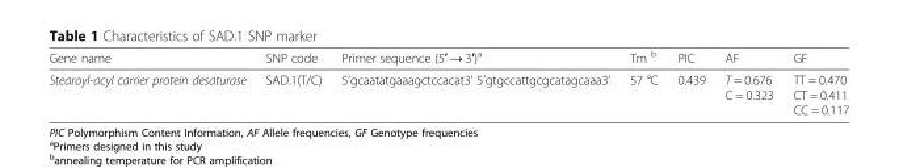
<table><thead><tr><td>Gene name</td><td>SNP code</td><td>Primer sequence (5′ → 3′)<sup>a</sup></td><td>Tm <sup>b</sup></td><td>PIC</td><td>AF</td><td>GF</td></tr></thead><tbody><tr><td>Stearoyl-acyl carrier protein desaturase</td><td>SAD.1(T/C)</td><td>5’gcaatatgaaagctccacat3’ 5’gtgccattgcgcatagcaaa3’</td><td>57 °C</td><td>0.439</td><td>T = 0.676 C = 0.323</td><td>TT = 0.470 CT = 0.411 CC = 0.117</td></tr></tbody></table>